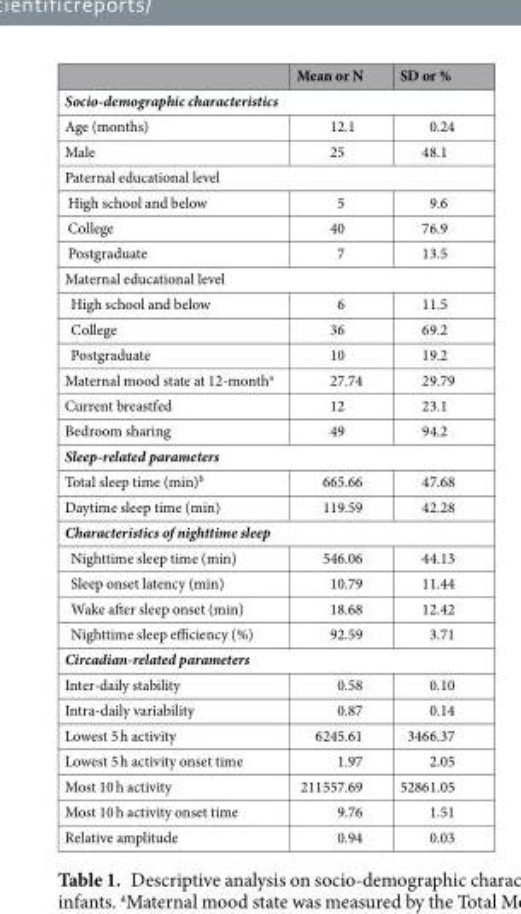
<table><thead><tr><td></td><td>Mean or N</td><td>SD or %</td></tr></thead><tbody><tr><td colspan="3">Socio-demographic characteristics</td></tr><tr><td>Age (months)</td><td>12.1</td><td>0.24</td></tr><tr><td>Male</td><td>25</td><td>48.1</td></tr><tr><td colspan="3">Paternal educational level</td></tr><tr><td>High school and below</td><td>5</td><td>9.6</td></tr><tr><td>College</td><td>40</td><td>76.9</td></tr><tr><td>Postgraduate</td><td>7</td><td>13.5</td></tr><tr><td colspan="3">Maternal educational level</td></tr><tr><td>High school and below</td><td>6</td><td>11.5</td></tr><tr><td>College</td><td>36</td><td>69.2</td></tr><tr><td>Postgraduate</td><td>10</td><td>19.2</td></tr><tr><td>Maternal mood state at 12-month<sup>a</sup></td><td>27.74</td><td>29.79</td></tr><tr><td>Current breastfed</td><td>12</td><td>23.1</td></tr><tr><td>Bedroom sharing</td><td>49</td><td>94.2</td></tr><tr><td colspan="3">Sleep-related parameters</td></tr><tr><td>Total sleep time (min)<sup>b</sup></td><td>665.66</td><td>47.68</td></tr><tr><td>Daytime sleep time (min)</td><td>119.59</td><td>42.28</td></tr><tr><td colspan="3">Characteristics of nighttime sleep</td></tr><tr><td>Nighttime sleep time (min)</td><td>546.06</td><td>44.13</td></tr><tr><td>Sleep onset latency (min)</td><td>10.79</td><td>11.44</td></tr><tr><td>Wake after sleep onset (min)</td><td>18.68</td><td>12.42</td></tr><tr><td>Nighttime sleep efficiency (%)</td><td>92.59</td><td>3.71</td></tr><tr><td colspan="3">Circadian-related parameters</td></tr><tr><td>Inter-daily stability</td><td>0.58</td><td>0.10</td></tr><tr><td>Intra-daily variability</td><td>0.87</td><td>0.14</td></tr><tr><td>Lowest 5 h activity</td><td>6245.61</td><td>3466.37</td></tr><tr><td>Lowest 5 h activity onset time</td><td>1.97</td><td>2.05</td></tr><tr><td>Most 10 h activity</td><td>211557.69</td><td>52861.05</td></tr><tr><td>Most 10 h activity onset time</td><td>9.76</td><td>1.51</td></tr><tr><td>Relative amplitude</td><td>0.94</td><td>0.03</td></tr></tbody></table>